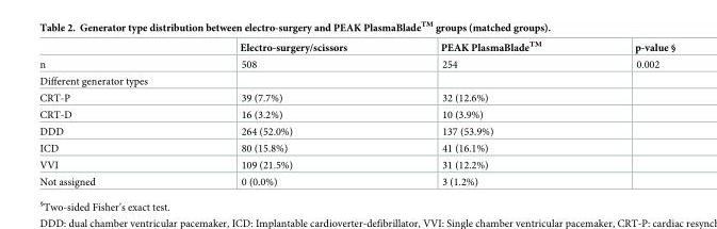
<table><thead><tr><td></td><td>Electro-surgery/scissors</td><td>PEAK PlasmaBlade<sup>TM</sup></td><td>p-value §</td></tr></thead><tbody><tr><td>n</td><td>508</td><td>254</td><td>0.002</td></tr><tr><td colspan="4">Different generator types</td></tr><tr><td>CRT-P</td><td>39 (7.7%)</td><td>32 (12.6%)</td><td></td></tr><tr><td>CRT-D</td><td>16 (3.2%)</td><td>10 (3.9%)</td><td></td></tr><tr><td>DDD</td><td>264 (52.0%)</td><td>137 (53.9%)</td><td></td></tr><tr><td>ICD</td><td>80 (15.8%)</td><td>41 (16.1%)</td><td></td></tr><tr><td>VVI</td><td>109 (21.5%)</td><td>31 (12.2%)</td><td></td></tr><tr><td>Not assigned</td><td>0 (0.0%)</td><td>3 (1.2%)</td><td></td></tr></tbody></table>